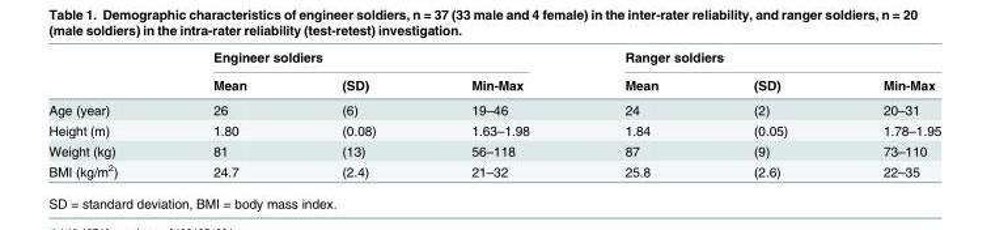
<table><thead><tr><td rowspan="2"></td><td colspan="3">Engineer soldiers</td><td colspan="3">Ranger soldiers</td></tr><tr><td>Mean</td><td>(SD)</td><td>Min-Max</td><td>Mean</td><td>(SD)</td><td>Min-Max</td></tr></thead><tbody><tr><td>Age (year)</td><td>26</td><td>(6)</td><td>19–46</td><td>24</td><td>(2)</td><td>20–31</td></tr><tr><td>Height (m)</td><td>1.80</td><td>(0.08)</td><td>1.63–1.98</td><td>1.84</td><td>(0.05)</td><td>1.78–1.95</td></tr><tr><td>Weight (kg)</td><td>81</td><td>(13)</td><td>56–118</td><td>87</td><td>(9)</td><td>73–110</td></tr><tr><td>BMI (kg/m<sup>2</sup>)</td><td>24.7</td><td>(2.4)</td><td>21–32</td><td>25.8</td><td>(2.6)</td><td>22–35</td></tr></tbody></table>